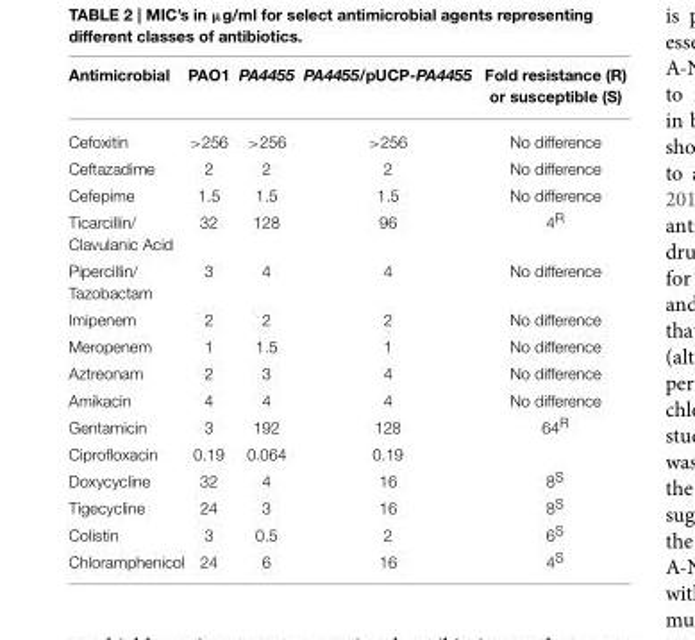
<table><thead><tr><td>Antimicrobial</td><td>PAO1</td><td>PA4455</td><td>PA4455/pUCP-PA4455</td><td>Fold resistance (R) or susceptible (S)</td></tr></thead><tbody><tr><td>Cefoxitin</td><td>&gt;256</td><td>&gt;256</td><td>&gt;256</td><td>No difference</td></tr><tr><td>Ceftazadime</td><td>2</td><td>2</td><td>2</td><td>No difference</td></tr><tr><td>Cefepime</td><td>1.5</td><td>1.5</td><td>1.5</td><td>No difference</td></tr><tr><td>Ticarcillin/ Clavulanic Acid</td><td>32</td><td>128</td><td>96</td><td>4<sup>R</sup></td></tr><tr><td>Pipercillin/ Tazobactam</td><td>3</td><td>4</td><td>4</td><td>No difference</td></tr><tr><td>Imipenem</td><td>2</td><td>2</td><td>2</td><td>No difference</td></tr><tr><td>Meropenem</td><td>1</td><td>1.5</td><td>1</td><td>No difference</td></tr><tr><td>Aztreonam</td><td>2</td><td>3</td><td>4</td><td>No difference</td></tr><tr><td>Amikacin</td><td>4</td><td>4</td><td>4</td><td>No difference</td></tr><tr><td>Gentamicin</td><td>3</td><td>192</td><td>128</td><td>64<sup>R</sup></td></tr><tr><td>Ciprofloxacin</td><td>0.19</td><td>0.064</td><td>0.19</td><td></td></tr><tr><td>Doxycycline</td><td>32</td><td>4</td><td>16</td><td>8<sup>S</sup></td></tr><tr><td>Tigecycline</td><td>24</td><td>3</td><td>16</td><td>8<sup>S</sup></td></tr><tr><td>Colistin</td><td>3</td><td>0.5</td><td>2</td><td>6<sup>S</sup></td></tr><tr><td>Chloramphenicol</td><td>24</td><td>6</td><td>16</td><td>4<sup>S</sup></td></tr></tbody></table>